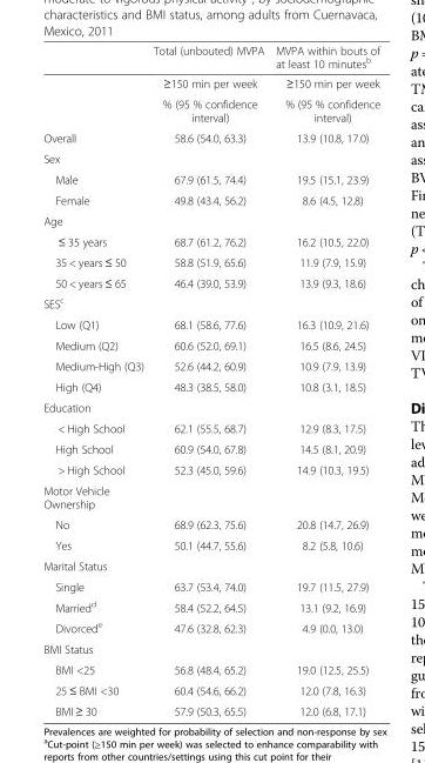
<table><thead><tr><td></td><td>Total (unbouted) MVPA</td><td>MVPA within bouts of at least 10 minutes<sup>b</sup></td></tr></thead><tbody><tr><td rowspan="2"></td><td>≥150 min per week</td><td>≥150 min per week</td></tr><tr><td>% (95 % confidence interval)</td><td>% (95 % confidence interval)</td></tr><tr><td>Overall</td><td>58.6 (54.0, 63.3)</td><td>13.9 (10.8, 17.0)</td></tr><tr><td colspan="3">Sex</td></tr><tr><td>Male</td><td>67.9 (61.5, 74.4)</td><td>19.5 (15.1, 23.9)</td></tr><tr><td>Female</td><td>49.8 (43.4, 56.2)</td><td>8.6 (4.5, 12.8)</td></tr><tr><td colspan="3">Age</td></tr><tr><td>≤ 35 years</td><td>68.7 (61.2, 76.2)</td><td>16.2 (10.5, 22.0)</td></tr><tr><td>35 &lt; years ≤ 50</td><td>58.8 (51.9, 65.6)</td><td>11.9 (7.9, 15.9)</td></tr><tr><td>50 &lt; years ≤ 65</td><td>46.4 (39.0, 53.9)</td><td>13.9 (9.3, 18.6)</td></tr><tr><td colspan="3">SES<sup>c</sup></td></tr><tr><td>Low (Q1)</td><td>68.1 (58.6, 77.6)</td><td>16.3 (10.9, 21.6)</td></tr><tr><td>Medium (Q2)</td><td>60.6 (52.0, 69.1)</td><td>16.5 (8.6, 24.5)</td></tr><tr><td>Medium-High (Q3)</td><td>52.6 (44.2, 60.9)</td><td>10.9 (7.9, 13.9)</td></tr><tr><td>High (Q4)</td><td>48.3 (38.5, 58.0)</td><td>10.8 (3.1, 18.5)</td></tr><tr><td colspan="3">Education</td></tr><tr><td>&lt; High School</td><td>62.1 (55.5, 68.7)</td><td>12.9 (8.3, 17.5)</td></tr><tr><td>High School</td><td>60.9 (54.0, 67.8)</td><td>14.5 (8.1, 20.9)</td></tr><tr><td>&gt; High School</td><td>52.3 (45.0, 59.6)</td><td>14.9 (10.3, 19.5)</td></tr><tr><td colspan="3">Motor Vehicle Ownership</td></tr><tr><td>No</td><td>68.9 (62.3, 75.6)</td><td>20.8 (14.7, 26.9)</td></tr><tr><td>Yes</td><td>50.1 (44.7, 55.6)</td><td>8.2 (5.8, 10.6)</td></tr><tr><td colspan="3">Marital Status</td></tr><tr><td>Single</td><td>63.7 (53.4, 74.0)</td><td>19.7 (11.5, 27.9)</td></tr><tr><td>Married<sup>d</sup></td><td>58.4 (52.2, 64.5)</td><td>13.1 (9.2, 16.9)</td></tr><tr><td>Divorced<sup>e</sup></td><td>47.6 (32.8, 62.3)</td><td>4.9 (0.0, 13.0)</td></tr><tr><td colspan="3">BMI Status</td></tr><tr><td>BMI &lt;25</td><td>56.8 (48.4, 65.2)</td><td>19.0 (12.5, 25.5)</td></tr><tr><td>25 ≤ BMI &lt;30</td><td>60.4 (54.6, 66.2)</td><td>12.0 (7.8, 16.3)</td></tr><tr><td>BMI ≥ 30</td><td>57.9 (50.3, 65.5)</td><td>12.0 (6.8, 17.1)</td></tr></tbody></table>